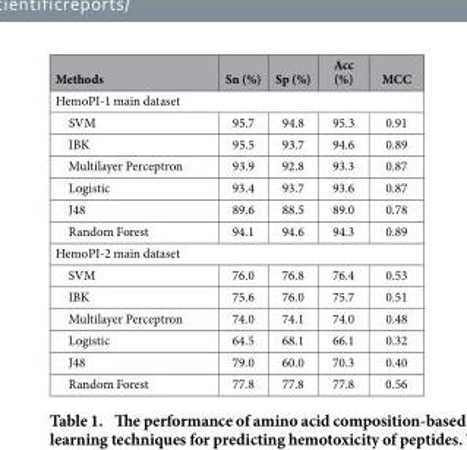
<table><thead><tr><td>Methods</td><td>Sn (%)</td><td>Sp (%)</td><td>Acc (%)</td><td>MCC</td></tr></thead><tbody><tr><td colspan="5">HemoPI-1 main dataset</td></tr><tr><td>SVM</td><td>95.7</td><td>94.8</td><td>95.3</td><td>0.91</td></tr><tr><td>IBK</td><td>95.5</td><td>93.7</td><td>94.6</td><td>0.89</td></tr><tr><td>Multilayer Perceptron</td><td>93.9</td><td>92.8</td><td>93.3</td><td>0.87</td></tr><tr><td>Logistic</td><td>93.4</td><td>93.7</td><td>93.6</td><td>0.87</td></tr><tr><td>J48</td><td>89.6</td><td>88.5</td><td>89.0</td><td>0.78</td></tr><tr><td>Random Forest</td><td>94.1</td><td>94.6</td><td>94.3</td><td>0.89</td></tr><tr><td colspan="5">HemoPI-2 main dataset</td></tr><tr><td>SVM</td><td>76.0</td><td>76.8</td><td>76.4</td><td>0.53</td></tr><tr><td>IBK</td><td>75.6</td><td>76.0</td><td>75.7</td><td>0.51</td></tr><tr><td>Multilayer Perceptron</td><td>74.0</td><td>74.1</td><td>74.0</td><td>0.48</td></tr><tr><td>Logistic</td><td>64.5</td><td>68.1</td><td>66.1</td><td>0.32</td></tr><tr><td>J48</td><td>79.0</td><td>60.0</td><td>70.3</td><td>0.40</td></tr><tr><td>Random Forest</td><td>77.8</td><td>77.8</td><td>77.8</td><td>0.56</td></tr></tbody></table>